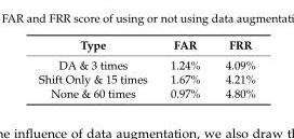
<table><thead><tr><td>Type</td><td>FAR</td><td>FRR</td></tr></thead><tbody><tr><td>DA &amp; 3 times</td><td>1.24%</td><td>4.09%</td></tr><tr><td>Shift Only &amp; 15 times</td><td>1.67%</td><td>4.21%</td></tr><tr><td>None &amp; 60 times</td><td>0.97%</td><td>4.80%</td></tr></tbody></table>